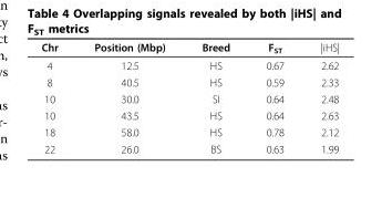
<table><thead><tr><td>Chr</td><td>Position (Mbp)</td><td>Breed</td><td>F<sub>ST</sub></td><td>|iHS|</td></tr></thead><tbody><tr><td>4</td><td>12.5</td><td>HS</td><td>0.67</td><td>2.62</td></tr><tr><td>8</td><td>40.5</td><td>HS</td><td>0.59</td><td>2.33</td></tr><tr><td>10</td><td>30.0</td><td>SI</td><td>0.64</td><td>2.48</td></tr><tr><td>10</td><td>43.5</td><td>HS</td><td>0.64</td><td>2.63</td></tr><tr><td>18</td><td>58.0</td><td>HS</td><td>0.78</td><td>2.12</td></tr><tr><td>22</td><td>26.0</td><td>BS</td><td>0.63</td><td>1.99</td></tr></tbody></table>